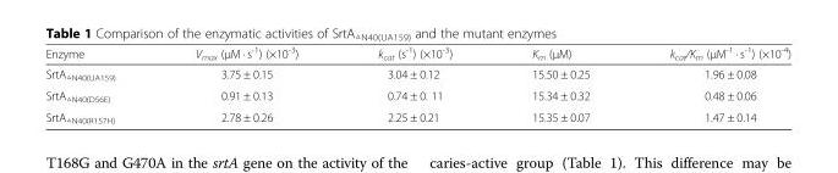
<table><thead><tr><td>Enzyme</td><td>V<sub>max</sub> (μM · s<sup>-1</sup>) (×10<sup>-3</sup>)</td><td>k<sub>cat</sub> (s<sup>-1</sup>) (×10<sup>-3</sup>)</td><td>K<sub>m</sub> (μM)</td><td>k<sub>cat</sub>/K<sub>m</sub> (μM<sup>-1</sup> · s<sup>-1</sup>) (×10<sup>-4</sup>)</td></tr></thead><tbody><tr><td>SrtA<sub>△N40(UA159)</sub></td><td>3.75 ± 0.15</td><td>3.04 ± 0.12</td><td>15.50 ± 0.25</td><td>1.96 ± 0.08</td></tr><tr><td>SrtA<sub>△N40(D56E)</sub></td><td>0.91 ± 0.13</td><td>0.74 ± 0. 11</td><td>15.34 ± 0.32</td><td>0.48 ± 0.06</td></tr><tr><td>SrtA<sub>△N40(R157H)</sub></td><td>2.78 ± 0.26</td><td>2.25 ± 0.21</td><td>15.35 ± 0.07</td><td>1.47 ± 0.14</td></tr></tbody></table>